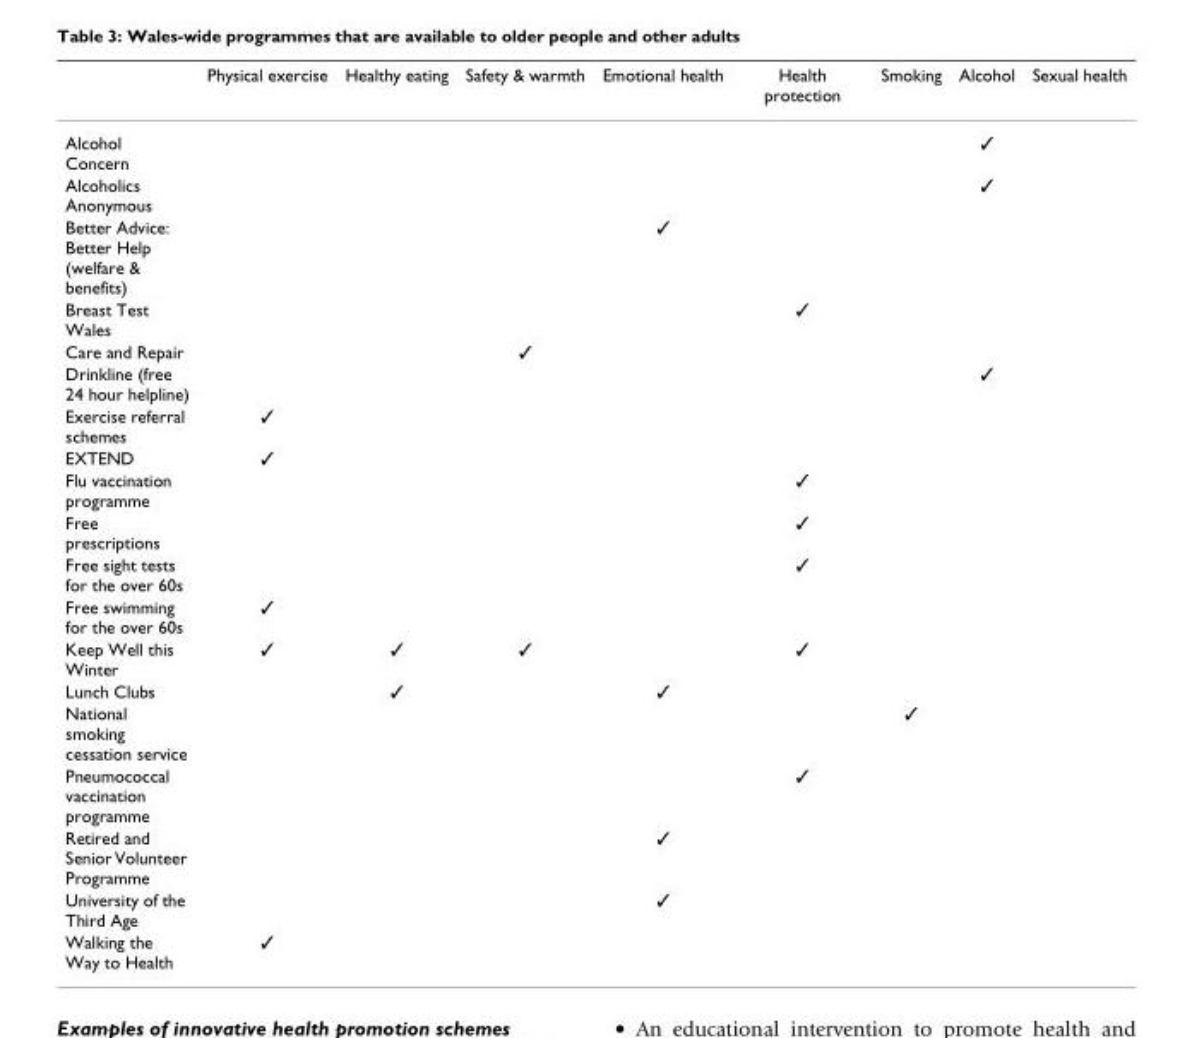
<table><thead><tr><td></td><td>Physical exercise</td><td>Healthy eating</td><td>Safety &amp; warmth</td><td>Emotional health</td><td>Health protection</td><td>Smoking</td><td>Alcohol</td><td>Sexual health</td></tr></thead><tbody><tr><td>Alcohol Concern</td><td></td><td></td><td></td><td></td><td></td><td></td><td>✓</td><td></td></tr><tr><td>Alcoholics Anonymous</td><td></td><td></td><td></td><td></td><td></td><td></td><td>✓</td><td></td></tr><tr><td>Better Advice: Better Help (welfare &amp; benefits)</td><td></td><td></td><td></td><td>✓</td><td></td><td></td><td></td><td></td></tr><tr><td>Breast Test Wales</td><td></td><td></td><td></td><td></td><td>✓</td><td></td><td></td><td></td></tr><tr><td>Care and Repair</td><td></td><td></td><td>✓</td><td></td><td></td><td></td><td></td><td></td></tr><tr><td>Drinkline (free 24 hour helpline)</td><td></td><td></td><td></td><td></td><td></td><td></td><td>✓</td><td></td></tr><tr><td>Exercise referral schemes</td><td>✓</td><td></td><td></td><td></td><td></td><td></td><td></td><td></td></tr><tr><td>EXTEND</td><td>✓</td><td></td><td></td><td></td><td></td><td></td><td></td><td></td></tr><tr><td>Flu vaccination programme</td><td></td><td></td><td></td><td></td><td>✓</td><td></td><td></td><td></td></tr><tr><td>Free prescriptions</td><td></td><td></td><td></td><td></td><td>✓</td><td></td><td></td><td></td></tr><tr><td>Free sight tests for the over 60s</td><td></td><td></td><td></td><td></td><td>✓</td><td></td><td></td><td></td></tr><tr><td>Free swimming for the over 60s</td><td>✓</td><td></td><td></td><td></td><td></td><td></td><td></td><td></td></tr><tr><td>Keep Well this Winter</td><td>✓</td><td>✓</td><td>✓</td><td></td><td>✓</td><td></td><td></td><td></td></tr><tr><td>Lunch Clubs</td><td></td><td>✓</td><td></td><td>✓</td><td></td><td></td><td></td><td></td></tr><tr><td>National smoking cessation service</td><td></td><td></td><td></td><td></td><td></td><td>✓</td><td></td><td></td></tr><tr><td>Pneumococcal vaccination programme</td><td></td><td></td><td></td><td></td><td>✓</td><td></td><td></td><td></td></tr><tr><td>Retired and Senior Volunteer Programme</td><td></td><td></td><td></td><td>✓</td><td></td><td></td><td></td><td></td></tr><tr><td>University of the Third Age</td><td></td><td></td><td></td><td>✓</td><td></td><td></td><td></td><td></td></tr><tr><td>Walking the Way to Health</td><td>✓</td><td></td><td></td><td></td><td></td><td></td><td></td><td></td></tr></tbody></table>